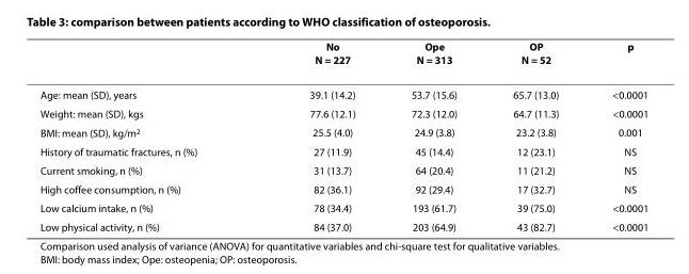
<table><thead><tr><td></td><td>No N = 227</td><td>Ope N = 313</td><td>OP N = 52</td><td>p</td></tr></thead><tbody><tr><td>Age: mean (SD), years</td><td>39.1 (14.2)</td><td>53.7 (15.6)</td><td>65.7 (13.0)</td><td>&lt;0.0001</td></tr><tr><td>Weight: mean (SD), kgs</td><td>77.6 (12.1)</td><td>72.3 (12.0)</td><td>64.7 (11.3)</td><td>&lt;0.0001</td></tr><tr><td>BMI: mean (SD), kg/m<sup>2</sup></td><td>25.5 (4.0)</td><td>24.9 (3.8)</td><td>23.2 (3.8)</td><td>0.001</td></tr><tr><td>History of traumatic fractures, n (%)</td><td>27 (11.9)</td><td>45 (14.4)</td><td>12 (23.1)</td><td>NS</td></tr><tr><td>Current smoking, n (%)</td><td>31 (13.7)</td><td>64 (20.4)</td><td>11 (21.2)</td><td>NS</td></tr><tr><td>High coffee consumption, n (%)</td><td>82 (36.1)</td><td>92 (29.4)</td><td>17 (32.7)</td><td>NS</td></tr><tr><td>Low calcium intake, n (%)</td><td>78 (34.4)</td><td>193 (61.7)</td><td>39 (75.0)</td><td>&lt;0.0001</td></tr><tr><td>Low physical activity, n (%)</td><td>84 (37.0)</td><td>203 (64.9)</td><td>43 (82.7)</td><td>&lt;0.0001</td></tr></tbody></table>